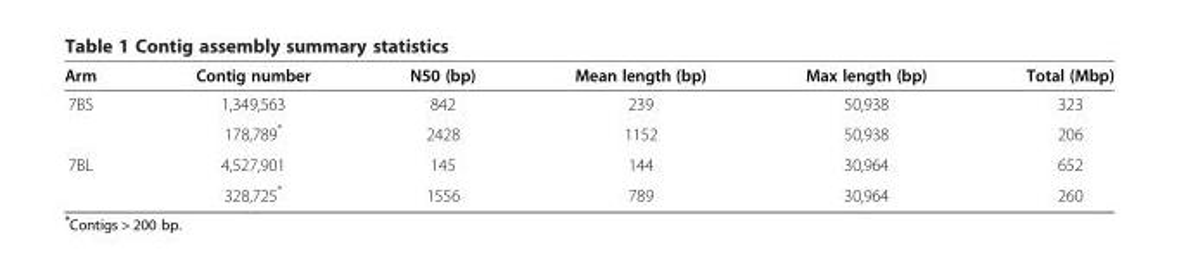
<table><thead><tr><td>Arm</td><td>Contig number</td><td>N50 (bp)</td><td>Mean length (bp)</td><td>Max length (bp)</td><td>Total (Mbp)</td></tr></thead><tbody><tr><td rowspan="2">7BS</td><td>1,349,563</td><td>842</td><td>239</td><td>50,938</td><td>323</td></tr><tr><td>178,789*</td><td>2428</td><td>1152</td><td>50,938</td><td>206</td></tr><tr><td rowspan="2">7BL</td><td>4,527,901</td><td>145</td><td>144</td><td>30,964</td><td>652</td></tr><tr><td>328,725*</td><td>1556</td><td>789</td><td>30,964</td><td>260</td></tr></tbody></table>